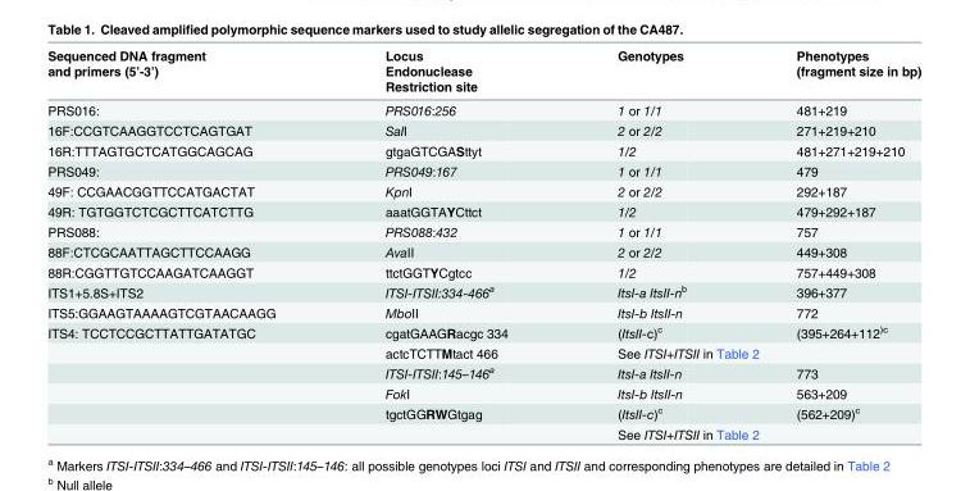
<table><thead><tr><td rowspan="3">Sequenced DNA fragment and primers (5’-3’)</td><td rowspan="3">Locus Endonuclease Restriction site</td><td rowspan="3">Genotypes</td><td rowspan="3">Phenotypes (fragment size in bp)</td></tr><tr></tr><tr></tr></thead><tbody><tr><td>PRS016:</td><td>PRS016:256</td><td>1 or 1/1</td><td>481+219</td></tr><tr><td>16F:CCGTCAAGGTCCTCAGTGAT</td><td>SaII</td><td>2 or 2/2</td><td>271+219+210</td></tr><tr><td>16R:TTTAGTGCTCATGGCAGCAG</td><td>gtgaGTCGASttyt</td><td>1/2</td><td>481+271+219+210</td></tr><tr><td>PRS049:</td><td>PRS049:167</td><td>1 or 1/1</td><td>479</td></tr><tr><td>49F: CCGAACGGTTCCATGACTAT</td><td>KpnI</td><td>2 or 2/2</td><td>292+187</td></tr><tr><td>49R: TGTGGTCTCGCTTCATCTTG</td><td>aaatGGTAYCttct</td><td>1/2</td><td>479+292+187</td></tr><tr><td>PRS088:</td><td>PRS088:432</td><td>1 or 1/1</td><td>757</td></tr><tr><td>88F:CTCGCAATTAGCTTCCAAGG</td><td>AvaII</td><td>2 or 2/2</td><td>449+308</td></tr><tr><td>88R:CGGTTGTCCAAGATCAAGGT</td><td>ttctGGTYCgtcc</td><td>1/2</td><td>757+449+308</td></tr><tr><td>ITS1+5.8S+ITS2</td><td>ITSI-ITSII:334-466<sup>a</sup></td><td>ItsI-a ItsII-n<sup>b</sup></td><td>396+377</td></tr><tr><td>ITS5:GGAAGTAAAAGTCGTAACAAGG</td><td>MboII</td><td>ItsI-b ItsII-n</td><td>772</td></tr><tr><td rowspan="6">ITS4: TCCTCCGCTTATTGATATGC</td><td>cgatGAAGRacgc 334</td><td>(ItsII-c)<sup>c</sup></td><td>(395+264+112<sup>)c</sup></td></tr><tr><td>actcTCTTMtact 466</td><td colspan="2">See ITSI+ITSII in Table 2</td></tr><tr><td>ITSI-ITSII:145–146<sup>a</sup></td><td>ItsI-a ItsII-n</td><td>773</td></tr><tr><td>FokI</td><td>ItsI-b ItsII-n</td><td>563+209</td></tr><tr><td>tgctGGRWGtgag</td><td>(ItsII-c)<sup>c</sup></td><td>(562+209)<sup>c</sup></td></tr><tr><td></td><td colspan="2">See ITSI+ITSII in Table 2</td></tr></tbody></table>